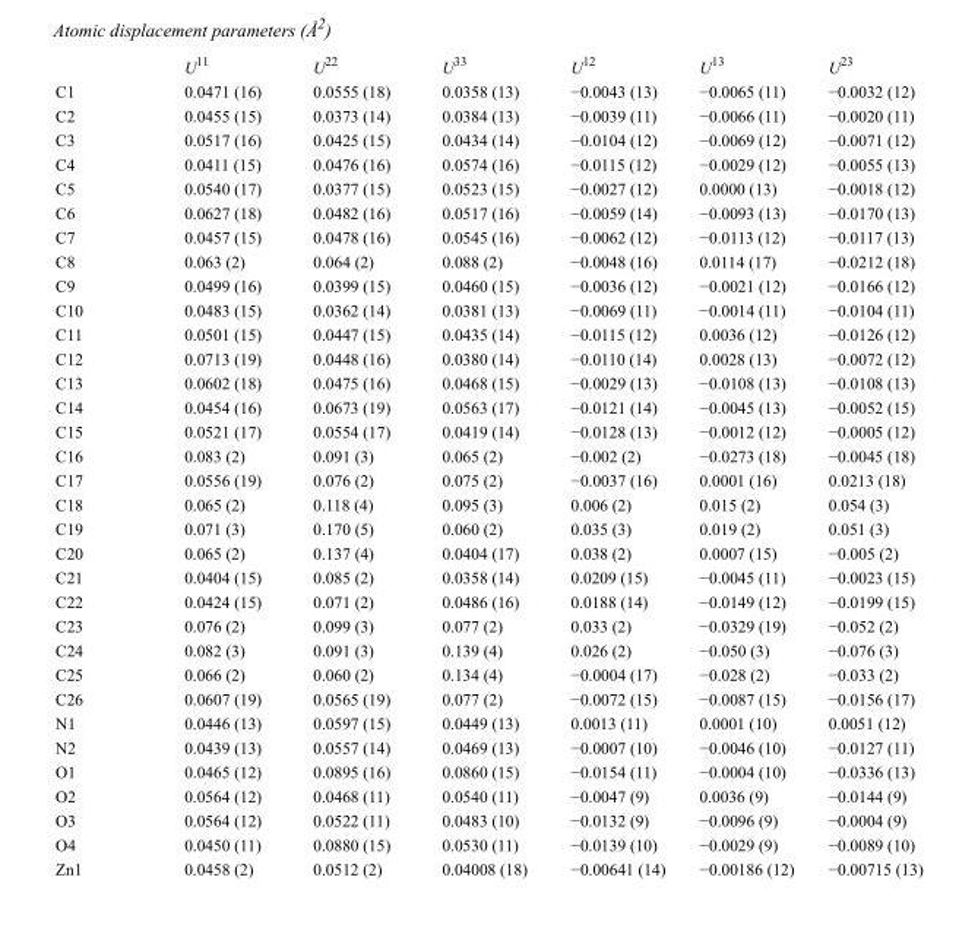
<table><thead><tr><td></td><td>U<sup>11</sup></td><td>U<sup>22</sup></td><td>U<sup>33</sup></td><td>U<sup>12</sup></td><td>U<sup>13</sup></td><td>U<sup>23</sup></td></tr></thead><tbody><tr><td>C1</td><td>0.0471 (16)</td><td>0.0555 (18)</td><td>0.0358 (13)</td><td>−0.0043 (13)</td><td>−0.0065 (11)</td><td>−0.0032 (12)</td></tr><tr><td>C2</td><td>0.0455 (15)</td><td>0.0373 (14)</td><td>0.0384 (13)</td><td>−0.0039 (11)</td><td>−0.0066 (11)</td><td>−0.0020 (11)</td></tr><tr><td>C3</td><td>0.0517 (16)</td><td>0.0425 (15)</td><td>0.0434 (14)</td><td>−0.0104 (12)</td><td>−0.0069 (12)</td><td>−0.0071 (12)</td></tr><tr><td>C4</td><td>0.0411 (15)</td><td>0.0476 (16)</td><td>0.0574 (16)</td><td>−0.0115 (12)</td><td>−0.0029 (12)</td><td>−0.0055 (13)</td></tr><tr><td>C5</td><td>0.0540 (17)</td><td>0.0377 (15)</td><td>0.0523 (15)</td><td>−0.0027 (12)</td><td>0.0000 (13)</td><td>−0.0018 (12)</td></tr><tr><td>C6</td><td>0.0627 (18)</td><td>0.0482 (16)</td><td>0.0517 (16)</td><td>−0.0059 (14)</td><td>−0.0093 (13)</td><td>−0.0170 (13)</td></tr><tr><td>C7</td><td>0.0457 (15)</td><td>0.0478 (16)</td><td>0.0545 (16)</td><td>−0.0062 (12)</td><td>−0.0113 (12)</td><td>−0.0117 (13)</td></tr><tr><td>C8</td><td>0.063 (2)</td><td>0.064 (2)</td><td>0.088 (2)</td><td>−0.0048 (16)</td><td>0.0114 (17)</td><td>−0.0212 (18)</td></tr><tr><td>C9</td><td>0.0499 (16)</td><td>0.0399 (15)</td><td>0.0460 (15)</td><td>−0.0036 (12)</td><td>−0.0021 (12)</td><td>−0.0166 (12)</td></tr><tr><td>C10</td><td>0.0483 (15)</td><td>0.0362 (14)</td><td>0.0381 (13)</td><td>−0.0069 (11)</td><td>−0.0014 (11)</td><td>−0.0104 (11)</td></tr><tr><td>C11</td><td>0.0501 (15)</td><td>0.0447 (15)</td><td>0.0435 (14)</td><td>−0.0115 (12)</td><td>0.0036 (12)</td><td>−0.0126 (12)</td></tr><tr><td>C12</td><td>0.0713 (19)</td><td>0.0448 (16)</td><td>0.0380 (14)</td><td>−0.0110 (14)</td><td>0.0028 (13)</td><td>−0.0072 (12)</td></tr><tr><td>C13</td><td>0.0602 (18)</td><td>0.0475 (16)</td><td>0.0468 (15)</td><td>−0.0029 (13)</td><td>−0.0108 (13)</td><td>−0.0108 (13)</td></tr><tr><td>C14</td><td>0.0454 (16)</td><td>0.0673 (19)</td><td>0.0563 (17)</td><td>−0.0121 (14)</td><td>−0.0045 (13)</td><td>−0.0052 (15)</td></tr><tr><td>C15</td><td>0.0521 (17)</td><td>0.0554 (17)</td><td>0.0419 (14)</td><td>−0.0128 (13)</td><td>−0.0012 (12)</td><td>−0.0005 (12)</td></tr><tr><td>C16</td><td>0.083 (2)</td><td>0.091 (3)</td><td>0.065 (2)</td><td>−0.002 (2)</td><td>−0.0273 (18)</td><td>−0.0045 (18)</td></tr><tr><td>C17</td><td>0.0556 (19)</td><td>0.076 (2)</td><td>0.075 (2)</td><td>−0.0037 (16)</td><td>0.0001 (16)</td><td>0.0213 (18)</td></tr><tr><td>C18</td><td>0.065 (2)</td><td>0.118 (4)</td><td>0.095 (3)</td><td>0.006 (2)</td><td>0.015 (2)</td><td>0.054 (3)</td></tr><tr><td>C19</td><td>0.071 (3)</td><td>0.170 (5)</td><td>0.060 (2)</td><td>0.035 (3)</td><td>0.019 (2)</td><td>0.051 (3)</td></tr><tr><td>C20</td><td>0.065 (2)</td><td>0.137 (4)</td><td>0.0404 (17)</td><td>0.038 (2)</td><td>0.0007 (15)</td><td>−0.005 (2)</td></tr><tr><td>C21</td><td>0.0404 (15)</td><td>0.085 (2)</td><td>0.0358 (14)</td><td>0.0209 (15)</td><td>−0.0045 (11)</td><td>−0.0023 (15)</td></tr><tr><td>C22</td><td>0.0424 (15)</td><td>0.071 (2)</td><td>0.0486 (16)</td><td>0.0188 (14)</td><td>−0.0149 (12)</td><td>−0.0199 (15)</td></tr><tr><td>C23</td><td>0.076 (2)</td><td>0.099 (3)</td><td>0.077 (2)</td><td>0.033 (2)</td><td>−0.0329 (19)</td><td>−0.052 (2)</td></tr><tr><td>C24</td><td>0.082 (3)</td><td>0.091 (3)</td><td>0.139 (4)</td><td>0.026 (2)</td><td>−0.050 (3)</td><td>−0.076 (3)</td></tr><tr><td>C25</td><td>0.066 (2)</td><td>0.060 (2)</td><td>0.134 (4)</td><td>−0.0004 (17)</td><td>−0.028 (2)</td><td>−0.033 (2)</td></tr><tr><td>C26</td><td>0.0607 (19)</td><td>0.0565 (19)</td><td>0.077 (2)</td><td>−0.0072 (15)</td><td>−0.0087 (15)</td><td>−0.0156 (17)</td></tr><tr><td>N1</td><td>0.0446 (13)</td><td>0.0597 (15)</td><td>0.0449 (13)</td><td>0.0013 (11)</td><td>0.0001 (10)</td><td>0.0051 (12)</td></tr><tr><td>N2</td><td>0.0439 (13)</td><td>0.0557 (14)</td><td>0.0469 (13)</td><td>−0.0007 (10)</td><td>−0.0046 (10)</td><td>−0.0127 (11)</td></tr><tr><td>O1</td><td>0.0465 (12)</td><td>0.0895 (16)</td><td>0.0860 (15)</td><td>−0.0154 (11)</td><td>−0.0004 (10)</td><td>−0.0336 (13)</td></tr><tr><td>O2</td><td>0.0564 (12)</td><td>0.0468 (11)</td><td>0.0540 (11)</td><td>−0.0047 (9)</td><td>0.0036 (9)</td><td>−0.0144 (9)</td></tr><tr><td>O3</td><td>0.0564 (12)</td><td>0.0522 (11)</td><td>0.0483 (10)</td><td>−0.0132 (9)</td><td>−0.0096 (9)</td><td>−0.0004 (9)</td></tr><tr><td>O4</td><td>0.0450 (11)</td><td>0.0880 (15)</td><td>0.0530 (11)</td><td>−0.0139 (10)</td><td>−0.0029 (9)</td><td>−0.0089 (10)</td></tr><tr><td>Zn1</td><td>0.0458 (2)</td><td>0.0512 (2)</td><td>0.04008 (18)</td><td>−0.00641 (14)</td><td>−0.00186 (12)</td><td>−0.00715 (13)</td></tr></tbody></table>